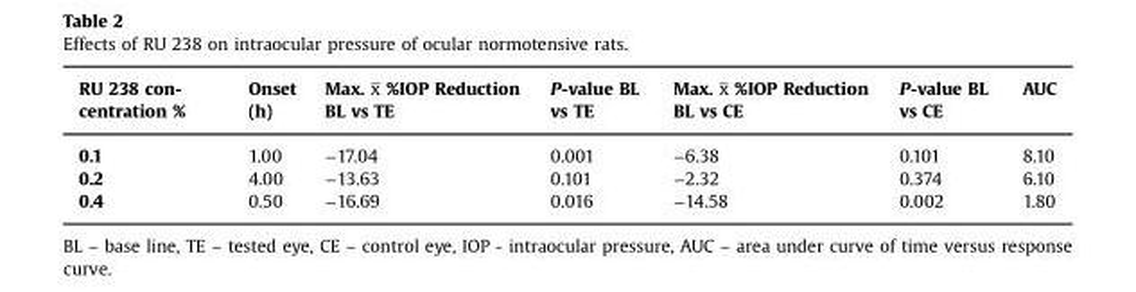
<table><thead><tr><td>RU 238 con- centration %</td><td>Onset (h)</td><td>Max. x̅ %IOP Reduction BL vs TE</td><td>P-value BL vs TE</td><td>Max. x̅ %IOP Reduction BL vs CE</td><td>P-value BL vs CE</td><td>AUC</td></tr></thead><tbody><tr><td>0.1</td><td>1.00</td><td>−17.04</td><td>0.001</td><td>−6.38</td><td>0.101</td><td>8.10</td></tr><tr><td>0.2</td><td>4.00</td><td>−13.63</td><td>0.101</td><td>−2.32</td><td>0.374</td><td>6.10</td></tr><tr><td>0.4</td><td>0.50</td><td>−16.69</td><td>0.016</td><td>−14.58</td><td>0.002</td><td>1.80</td></tr></tbody></table>